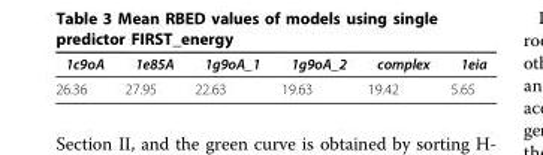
<table><thead><tr><td>1c9oA</td><td>1e85A</td><td>1g9oA_1</td><td>1g9oA_2</td><td>complex</td><td>1eia</td></tr></thead><tbody><tr><td>26.36</td><td>27.95</td><td>22.63</td><td>19.63</td><td>19.42</td><td>5.65</td></tr></tbody></table>